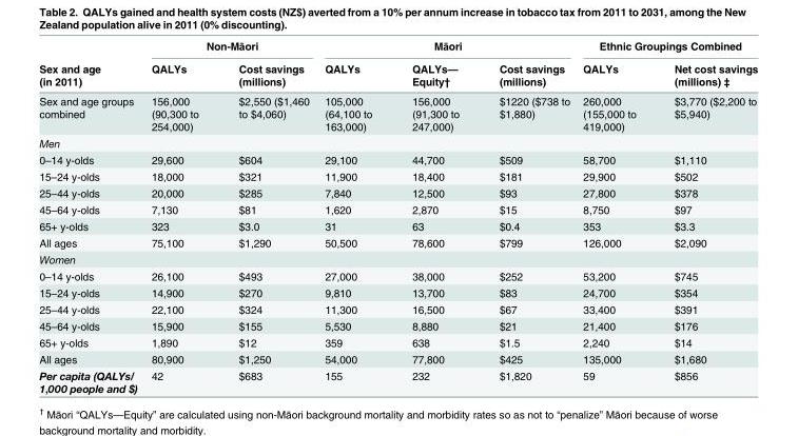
<table><thead><tr><td rowspan="2">Sex and age (in 2011)</td><td colspan="2">Non-Māori</td><td colspan="3">Māori</td><td colspan="2">Ethnic Groupings Combined</td></tr><tr><td>QALYs</td><td>Cost savings (millions)</td><td>QALYs</td><td>QALYs— Equity†</td><td>Cost savings (millions)</td><td>QALYs</td><td>Net cost savings (millions) ‡</td></tr></thead><tbody><tr><td>Sex and age groups combined</td><td>156,000 (90,300 to 254,000)</td><td>$2,550 ($1,460 to $4,060)</td><td>105,000 (64,100 to 163,000)</td><td>156,000 (91,300 to 247,000)</td><td>$1220 ($738 to $1,880)</td><td>260,000 (155,000 to 419,000)</td><td>$3,770 ($2,200 to $5,940)</td></tr><tr><td colspan="8">Men</td></tr><tr><td>0–14 y-olds</td><td>29,600</td><td>$604</td><td>29,100</td><td>44,700</td><td>$509</td><td>58,700</td><td>$1,110</td></tr><tr><td>15–24 y-olds</td><td>18,000</td><td>$321</td><td>11,900</td><td>18,400</td><td>$181</td><td>29,900</td><td>$502</td></tr><tr><td>25–44 y-olds</td><td>20,000</td><td>$285</td><td>7,840</td><td>12,500</td><td>$93</td><td>27,800</td><td>$378</td></tr><tr><td>45–64 y-olds</td><td>7,130</td><td>$81</td><td>1,620</td><td>2,870</td><td>$15</td><td>8,750</td><td>$97</td></tr><tr><td>65+ y-olds</td><td>323</td><td>$3.0</td><td>31</td><td>63</td><td>$0.4</td><td>353</td><td>$3.3</td></tr><tr><td>All ages</td><td>75,100</td><td>$1,290</td><td>50,500</td><td>78,600</td><td>$799</td><td>126,000</td><td>$2,090</td></tr><tr><td colspan="8">Women</td></tr><tr><td>0–14 y-olds</td><td>26,100</td><td>$493</td><td>27,000</td><td>38,000</td><td>$252</td><td>53,200</td><td>$745</td></tr><tr><td>15–24 y-olds</td><td>14,900</td><td>$270</td><td>9,810</td><td>13,700</td><td>$83</td><td>24,700</td><td>$354</td></tr><tr><td>25–44 y-olds</td><td>22,100</td><td>$324</td><td>11,300</td><td>16,500</td><td>$67</td><td>33,400</td><td>$391</td></tr><tr><td>45–64 y-olds</td><td>15,900</td><td>$155</td><td>5,530</td><td>8,880</td><td>$21</td><td>21,400</td><td>$176</td></tr><tr><td>65+ y-olds</td><td>1,890</td><td>$12</td><td>359</td><td>638</td><td>$1.5</td><td>2,240</td><td>$14</td></tr><tr><td>All ages</td><td>80,900</td><td>$1,250</td><td>54,000</td><td>77,800</td><td>$425</td><td>135,000</td><td>$1,680</td></tr><tr><td>Per capita (QALYs/ 1,000 people and $)</td><td>42</td><td>$683</td><td>155</td><td>232</td><td>$1,820</td><td>59</td><td>$856</td></tr></tbody></table>